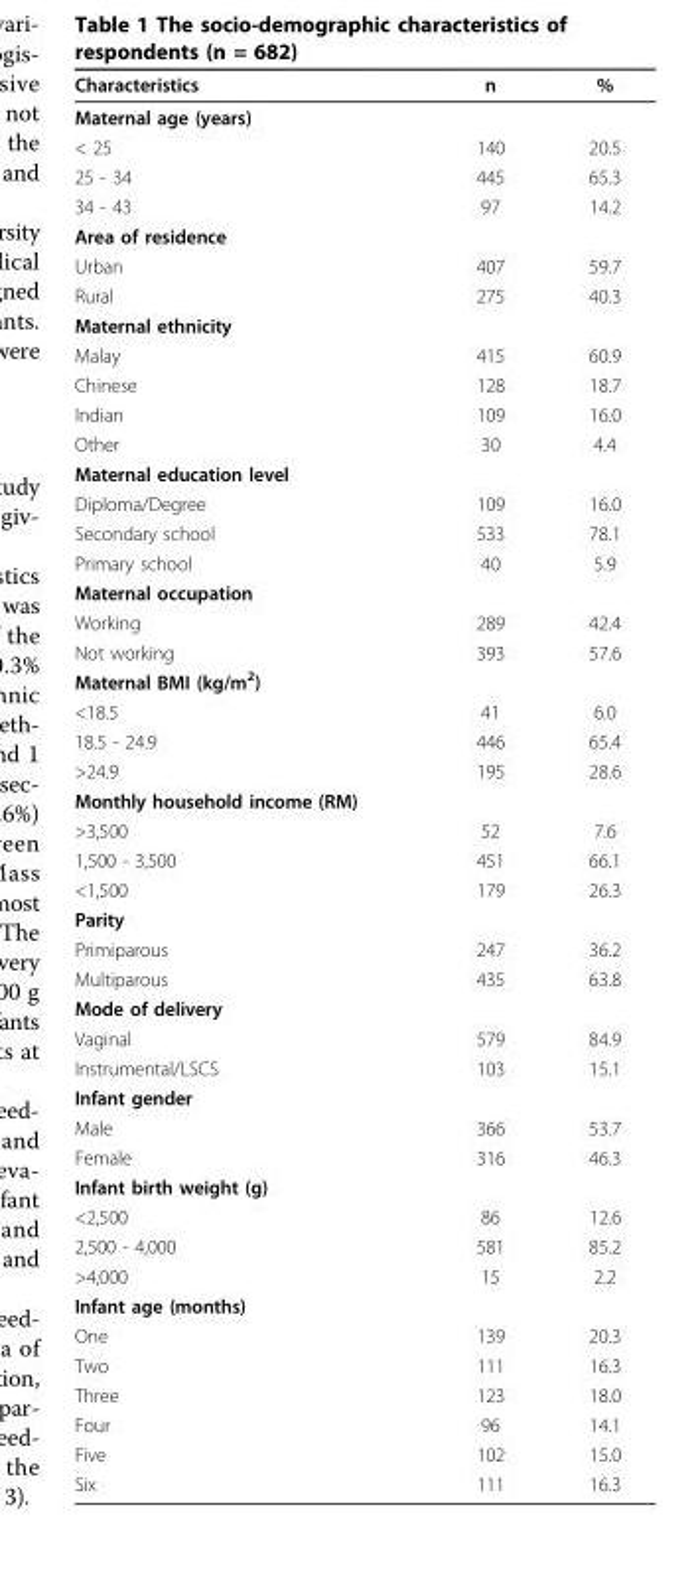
<table><thead><tr><td>Characteristics</td><td>n</td><td>%</td></tr></thead><tbody><tr><td colspan="3">Maternal age (years)</td></tr><tr><td>&lt; 25</td><td>140</td><td>20.5</td></tr><tr><td>25 - 34</td><td>445</td><td>65.3</td></tr><tr><td>34 - 43</td><td>97</td><td>14.2</td></tr><tr><td colspan="3">Area of residence</td></tr><tr><td>Urban</td><td>407</td><td>59.7</td></tr><tr><td>Rural</td><td>275</td><td>40.3</td></tr><tr><td colspan="3">Maternal ethnicity</td></tr><tr><td>Malay</td><td>415</td><td>60.9</td></tr><tr><td>Chinese</td><td>128</td><td>18.7</td></tr><tr><td>Indian</td><td>109</td><td>16.0</td></tr><tr><td>Other</td><td>30</td><td>4.4</td></tr><tr><td colspan="3">Maternal education level</td></tr><tr><td>Diploma/Degree</td><td>109</td><td>16.0</td></tr><tr><td>Secondary school</td><td>533</td><td>78.1</td></tr><tr><td>Primary school</td><td>40</td><td>5.9</td></tr><tr><td colspan="3">Maternal occupation</td></tr><tr><td>Working</td><td>289</td><td>42.4</td></tr><tr><td>Not working</td><td>393</td><td>57.6</td></tr><tr><td colspan="3">Maternal BMI (kg/m<sup>2</sup>)</td></tr><tr><td>&lt;18.5</td><td>41</td><td>6.0</td></tr><tr><td>18.5 - 24.9</td><td>446</td><td>65.4</td></tr><tr><td>&gt;24.9</td><td>195</td><td>28.6</td></tr><tr><td colspan="3">Monthly household income (RM)</td></tr><tr><td>&gt;3,500</td><td>52</td><td>7.6</td></tr><tr><td>1,500 - 3,500</td><td>451</td><td>66.1</td></tr><tr><td>&lt;1,500</td><td>179</td><td>26.3</td></tr><tr><td colspan="3">Parity</td></tr><tr><td>Primiparous</td><td>247</td><td>36.2</td></tr><tr><td>Multiparous</td><td>435</td><td>63.8</td></tr><tr><td colspan="3">Mode of delivery</td></tr><tr><td>Vaginal</td><td>579</td><td>84.9</td></tr><tr><td>Instrumental/LSCS</td><td>103</td><td>15.1</td></tr><tr><td colspan="3">Infant gender</td></tr><tr><td>Male</td><td>366</td><td>53.7</td></tr><tr><td>Female</td><td>316</td><td>46.3</td></tr><tr><td colspan="3">Infant birth weight (g)</td></tr><tr><td>&lt;2,500</td><td>86</td><td>12.6</td></tr><tr><td>2,500 - 4,000</td><td>581</td><td>85.2</td></tr><tr><td>&gt;4,000</td><td>15</td><td>2.2</td></tr><tr><td colspan="3">Infant age (months)</td></tr><tr><td>One</td><td>139</td><td>20.3</td></tr><tr><td>Two</td><td>111</td><td>16.3</td></tr><tr><td>Three</td><td>123</td><td>18.0</td></tr><tr><td>Four</td><td>96</td><td>14.1</td></tr><tr><td>Five</td><td>102</td><td>15.0</td></tr><tr><td>Six</td><td>111</td><td>16.3</td></tr></tbody></table>